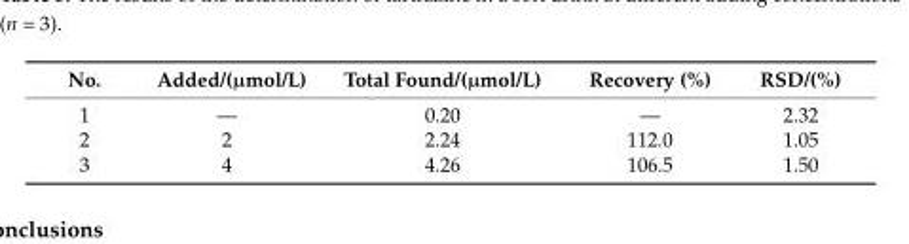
<table><thead><tr><td>No.</td><td>Added/(µmol/L)</td><td>Total Found/(µmol/L)</td><td>Recovery (%)</td><td>RSD/(%)</td></tr></thead><tbody><tr><td>1</td><td>—</td><td>0.20</td><td>—</td><td>2.32</td></tr><tr><td>2</td><td>2</td><td>2.24</td><td>112.0</td><td>1.05</td></tr><tr><td>3</td><td>4</td><td>4.26</td><td>106.5</td><td>1.50</td></tr></tbody></table>